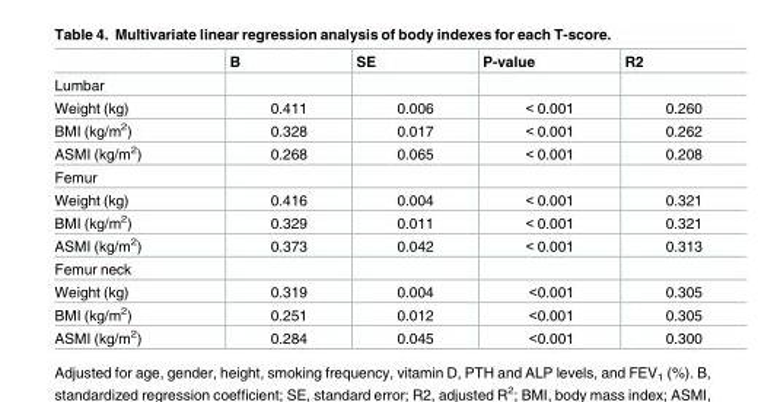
<table><thead><tr><td></td><td>B</td><td>SE</td><td>P-value</td><td>R2</td></tr></thead><tbody><tr><td colspan="5">Lumbar</td></tr><tr><td>Weight (kg)</td><td>0.411</td><td>0.006</td><td>&lt; 0.001</td><td>0.260</td></tr><tr><td>BMI (kg/m<sup>2</sup>)</td><td>0.328</td><td>0.017</td><td>&lt; 0.001</td><td>0.262</td></tr><tr><td>ASMI (kg/m<sup>2</sup>)</td><td>0.268</td><td>0.065</td><td>&lt; 0.001</td><td>0.208</td></tr><tr><td colspan="5">Femur</td></tr><tr><td>Weight (kg)</td><td>0.416</td><td>0.004</td><td>&lt; 0.001</td><td>0.321</td></tr><tr><td>BMI (kg/m<sup>2</sup>)</td><td>0.329</td><td>0.011</td><td>&lt; 0.001</td><td>0.321</td></tr><tr><td>ASMI (kg/m<sup>2</sup>)</td><td>0.373</td><td>0.042</td><td>&lt; 0.001</td><td>0.313</td></tr><tr><td colspan="5">Femur neck</td></tr><tr><td>Weight (kg)</td><td>0.319</td><td>0.004</td><td>&lt;0.001</td><td>0.305</td></tr><tr><td>BMI (kg/m<sup>2</sup>)</td><td>0.251</td><td>0.012</td><td>&lt;0.001</td><td>0.305</td></tr><tr><td>ASMI (kg/m<sup>2</sup>)</td><td>0.284</td><td>0.045</td><td>&lt;0.001</td><td>0.300</td></tr></tbody></table>